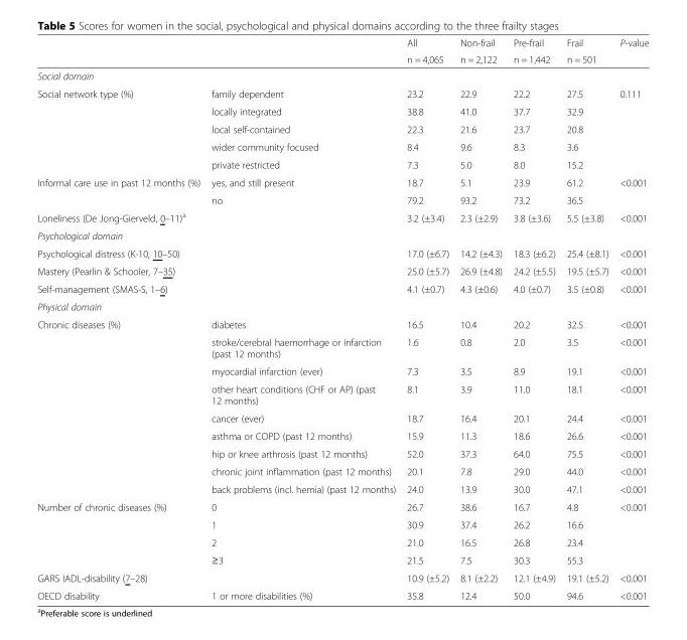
<table><thead><tr><td rowspan="2"></td><td rowspan="2"></td><td rowspan="2">All n = 4,065</td><td rowspan="2">Non-frail n = 2,122</td><td rowspan="2">Pre-frail n = 1,442</td><td rowspan="2">Frail n = 501</td><td rowspan="2">P-value</td></tr><tr></tr></thead><tbody><tr><td colspan="7">Social domain</td></tr><tr><td rowspan="5">Social network type (%)</td><td>family dependent</td><td>23.2</td><td>22.9</td><td>22.2</td><td>27.5</td><td rowspan="5">0.111</td></tr><tr><td>locally integrated</td><td>38.8</td><td>41.0</td><td>37.7</td><td>32.9</td></tr><tr><td>local self-contained</td><td>22.3</td><td>21.6</td><td>23.7</td><td>20.8</td></tr><tr><td>wider community focused</td><td>8.4</td><td>9.6</td><td>8.3</td><td>3.6</td></tr><tr><td>private restricted</td><td>7.3</td><td>5.0</td><td>8.0</td><td>15.2</td></tr><tr><td rowspan="2">Informal care use in past 12 months (%)</td><td>yes, and still present</td><td>18.7</td><td>5.1</td><td>23.9</td><td>61.2</td><td rowspan="2">&lt;0.001</td></tr><tr><td>no</td><td>79.2</td><td>93.2</td><td>73.2</td><td>36.5</td></tr><tr><td>Loneliness (De Jong-Gierveld, 0–11)<sup>a</sup></td><td></td><td>3.2 (±3.4)</td><td>2.3 (±2.9)</td><td>3.8 (±3.6)</td><td>5.5 (±3.8)</td><td>&lt;0.001</td></tr><tr><td colspan="7">Psychological domain</td></tr><tr><td>Psychological distress (K-10, 10–50)</td><td></td><td>17.0 (±6.7)</td><td>14.2 (±4.3)</td><td>18.3 (±6.2)</td><td>25.4 (±8.1)</td><td>&lt;0.001</td></tr><tr><td>Mastery (Pearlin &amp; Schooler, 7–35)</td><td></td><td>25.0 (±5.7)</td><td>26.9 (±4.8)</td><td>24.2 (±5.5)</td><td>19.5 (±5.7)</td><td>&lt;0.001</td></tr><tr><td>Self-management (SMAS-S, 1–6)</td><td></td><td>4.1 (±0.7)</td><td>4.3 (±0.6)</td><td>4.0 (±0.7)</td><td>3.5 (±0.8)</td><td>&lt;0.001</td></tr><tr><td colspan="7">Physical domain</td></tr><tr><td rowspan="9">Chronic diseases (%)</td><td>diabetes</td><td>16.5</td><td>10.4</td><td>20.2</td><td>32.5</td><td>&lt;0.001</td></tr><tr><td>stroke/cerebral haemorrhage or infarction (past 12 months)</td><td>1.6</td><td>0.8</td><td>2.0</td><td>3.5</td><td>&lt;0.001</td></tr><tr><td>myocardial infarction (ever)</td><td>7.3</td><td>3.5</td><td>8.9</td><td>19.1</td><td>&lt;0.001</td></tr><tr><td>other heart conditions (CHF or AP) (past 12 months)</td><td>8.1</td><td>3.9</td><td>11.0</td><td>18.1</td><td>&lt;0.001</td></tr><tr><td>cancer (ever)</td><td>18.7</td><td>16.4</td><td>20.1</td><td>24.4</td><td>&lt;0.001</td></tr><tr><td>asthma or COPD (past 12 months)</td><td>15.9</td><td>11.3</td><td>18.6</td><td>26.6</td><td>&lt;0.001</td></tr><tr><td>hip or knee arthrosis (past 12 months)</td><td>52.0</td><td>37.3</td><td>64.0</td><td>75.5</td><td>&lt;0.001</td></tr><tr><td>chronic joint inflammation (past 12 months)</td><td>20.1</td><td>7.8</td><td>29.0</td><td>44.0</td><td>&lt;0.001</td></tr><tr><td>back problems (incl. hernia) (past 12 months)</td><td>24.0</td><td>13.9</td><td>30.0</td><td>47.1</td><td>&lt;0.001</td></tr><tr><td rowspan="4">Number of chronic diseases (%)</td><td>0</td><td>26.7</td><td>38.6</td><td>16.7</td><td>4.8</td><td rowspan="4">&lt;0.001</td></tr><tr><td>1</td><td>30.9</td><td>37.4</td><td>26.2</td><td>16.6</td></tr><tr><td>2</td><td>21.0</td><td>16.5</td><td>26.8</td><td>23.4</td></tr><tr><td>≥3</td><td>21.5</td><td>7.5</td><td>30.3</td><td>55.3</td></tr><tr><td>GARS IADL-disability (7–28)</td><td></td><td>10.9 (±5.2)</td><td>8.1 (±2.2)</td><td>12.1 (±4.9)</td><td>19.1 (±5.2)</td><td>&lt;0.001</td></tr><tr><td>OECD disability</td><td>1 or more disabilities (%)</td><td>35.8</td><td>12.4</td><td>50.0</td><td>94.6</td><td>&lt;0.001</td></tr></tbody></table>